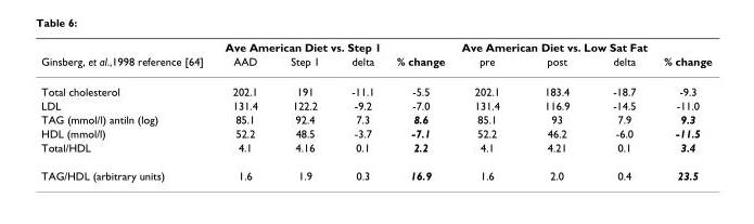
<table><thead><tr><td rowspan="2">Ginsberg, et al.,1998 reference [64]</td><td colspan="3">Ave American Diet vs. Step 1</td><td rowspan="2">% change</td><td colspan="3">Ave American Diet vs. Low Sat Fat</td><td rowspan="2">% change</td></tr><tr><td>AAD</td><td>Step 1</td><td>delta</td><td>pre</td><td>post</td><td>delta</td></tr></thead><tbody><tr><td>Total cholesterol</td><td>202.1</td><td>191</td><td>-11.1</td><td>-5.5</td><td>202.1</td><td>183.4</td><td>-18.7</td><td>-9.3</td></tr><tr><td>LDL</td><td>131.4</td><td>122.2</td><td>-9.2</td><td>-7.0</td><td>131.4</td><td>116.9</td><td>-14.5</td><td>-11.0</td></tr><tr><td>TAG (mmol/l) antiln (log)</td><td>85.1</td><td>92.4</td><td>7.3</td><td>8.6</td><td>85.1</td><td>93</td><td>7.9</td><td>9.3</td></tr><tr><td>HDL (mmol/l)</td><td>52.2</td><td>48.5</td><td>-3.7</td><td>-7.1</td><td>52.2</td><td>46.2</td><td>-6.0</td><td>-11.5</td></tr><tr><td>Total/HDL</td><td>4.1</td><td>4.16</td><td>0.1</td><td>2.2</td><td>4.1</td><td>4.21</td><td>0.1</td><td>3.4</td></tr><tr><td>TAG/HDL (arbitrary units)</td><td>1.6</td><td>1.9</td><td>0.3</td><td>16.9</td><td>1.6</td><td>2.0</td><td>0.4</td><td>23.5</td></tr></tbody></table>